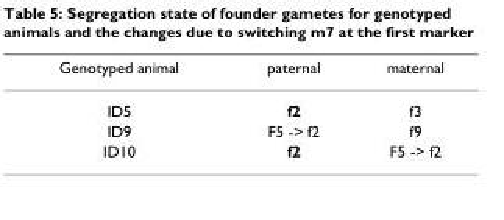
<table><thead><tr><td>Genotyped animal</td><td>paternal</td><td>maternal</td></tr></thead><tbody><tr><td>ID5</td><td>f2</td><td>f3</td></tr><tr><td>ID9</td><td>F5 -&gt; f2</td><td>f9</td></tr><tr><td>ID10</td><td>f2</td><td>F5 -&gt; f2</td></tr></tbody></table>